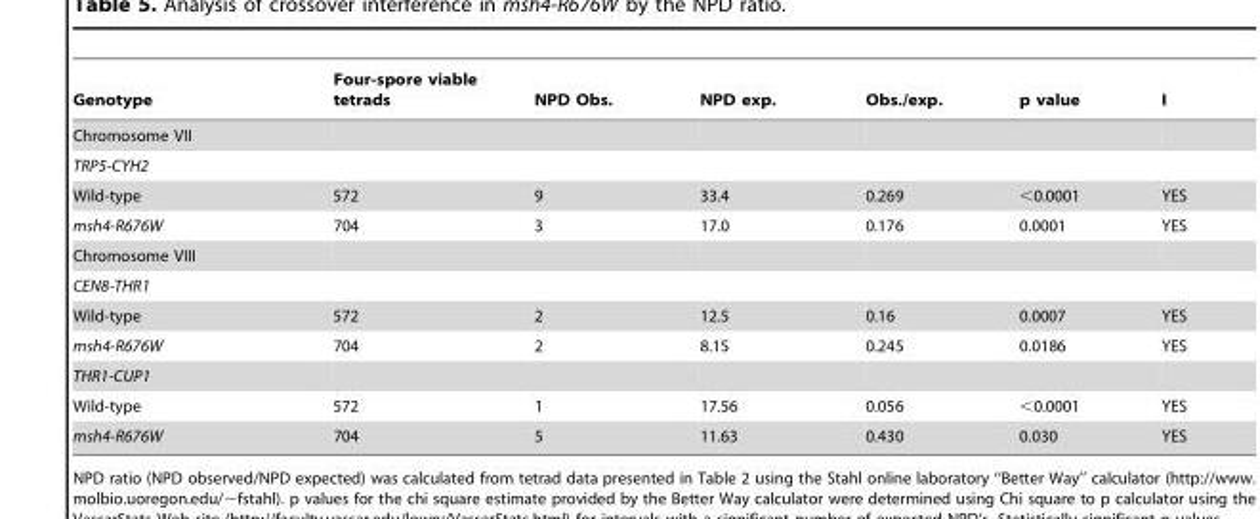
<table><thead><tr><td>Genotype</td><td>Four-spore viable tetrads</td><td>NPD Obs.</td><td>NPD exp.</td><td>Obs./exp.</td><td>p value</td><td>I</td></tr></thead><tbody><tr><td colspan="7">Chromosome VII</td></tr><tr><td colspan="7">TRP5-CYH2</td></tr><tr><td>Wild-type</td><td>572</td><td>9</td><td>33.4</td><td>0.269</td><td>&lt;0.0001</td><td>YES</td></tr><tr><td>msh4-R676W</td><td>704</td><td>3</td><td>17.0</td><td>0.176</td><td>0.0001</td><td>YES</td></tr><tr><td colspan="7">Chromosome VIII</td></tr><tr><td colspan="7">CEN8-THR1</td></tr><tr><td>Wild-type</td><td>572</td><td>2</td><td>12.5</td><td>0.16</td><td>0.0007</td><td>YES</td></tr><tr><td>msh4-R676W</td><td>704</td><td>2</td><td>8.15</td><td>0.245</td><td>0.0186</td><td>YES</td></tr><tr><td colspan="7">THR1-CUP1</td></tr><tr><td>Wild-type</td><td>572</td><td>1</td><td>17.56</td><td>0.056</td><td>&lt;0.0001</td><td>YES</td></tr><tr><td>msh4-R676W</td><td>704</td><td>5</td><td>11.63</td><td>0.430</td><td>0.030</td><td>YES</td></tr></tbody></table>